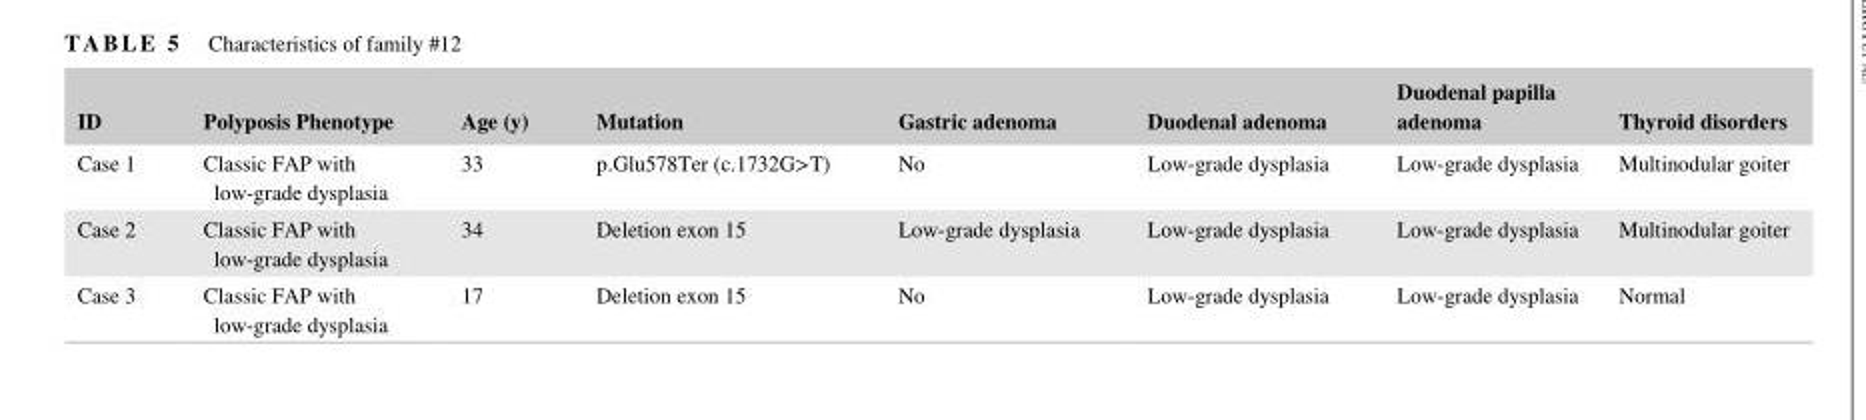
<table><thead><tr><td>ID</td><td>Polyposis Phenotype</td><td>Age (y)</td><td>Mutation</td><td>Gastric adenoma</td><td>Duodenal adenoma</td><td>Duodenal papilla adenoma</td><td>Thyroid disorders</td></tr></thead><tbody><tr><td>Case 1</td><td>Classic FAP with low‐grade dysplasia</td><td>33</td><td>p.Glu578Ter (c.1732G&gt;T)</td><td>No</td><td>Low‐grade dysplasia</td><td>Low‐grade dysplasia</td><td>Multinodular goiter</td></tr><tr><td>Case 2</td><td>Classic FAP with low‐grade dysplasia</td><td>34</td><td>Deletion exon 15</td><td>Low‐grade dysplasia</td><td>Low‐grade dysplasia</td><td>Low‐grade dysplasia</td><td>Multinodular goiter</td></tr><tr><td>Case 3</td><td>Classic FAP with low‐grade dysplasia</td><td>17</td><td>Deletion exon 15</td><td>No</td><td>Low‐grade dysplasia</td><td>Low‐grade dysplasia</td><td>Normal</td></tr></tbody></table>